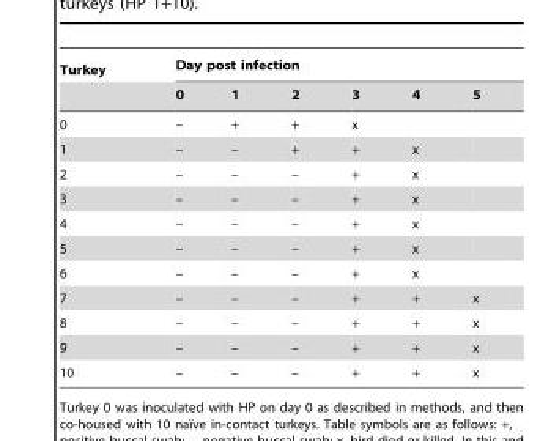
<table><thead><tr><td rowspan="2">Turkey</td><td colspan="6">Day post infection</td></tr><tr><td>0</td><td>1</td><td>2</td><td>3</td><td>4</td><td>5</td></tr></thead><tbody><tr><td>0</td><td>–</td><td>+</td><td>+</td><td>x</td><td></td><td></td></tr><tr><td>1</td><td>–</td><td>–</td><td>+</td><td>+</td><td>x</td><td></td></tr><tr><td>2</td><td>–</td><td>–</td><td>–</td><td>+</td><td>x</td><td></td></tr><tr><td>3</td><td>–</td><td>–</td><td>–</td><td>+</td><td>x</td><td></td></tr><tr><td>4</td><td>–</td><td>–</td><td>–</td><td>+</td><td>x</td><td></td></tr><tr><td>5</td><td>–</td><td>–</td><td>–</td><td>+</td><td>x</td><td></td></tr><tr><td>6</td><td>–</td><td>–</td><td>–</td><td>+</td><td>x</td><td></td></tr><tr><td>7</td><td>–</td><td>–</td><td>–</td><td>+</td><td>+</td><td>x</td></tr><tr><td>8</td><td>–</td><td>–</td><td>–</td><td>+</td><td>+</td><td>x</td></tr><tr><td>9</td><td>–</td><td>–</td><td>–</td><td>+</td><td>+</td><td>x</td></tr><tr><td>10</td><td>–</td><td>–</td><td>–</td><td>+</td><td>+</td><td>x</td></tr></tbody></table>